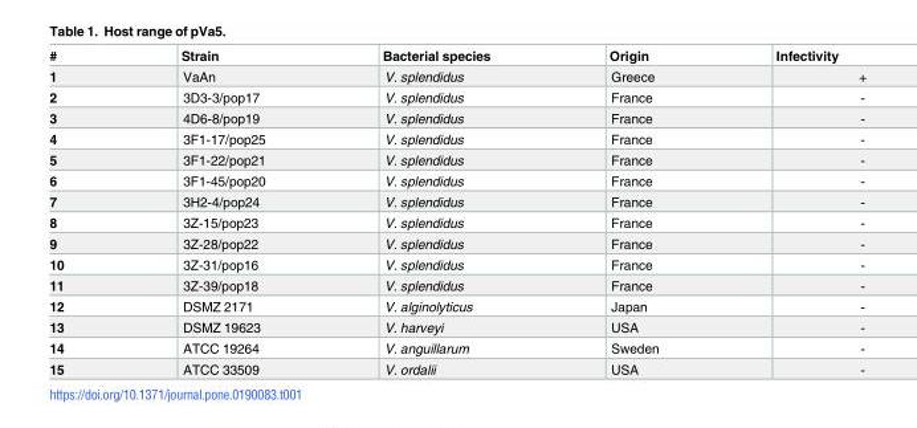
<table><thead><tr><td>#</td><td>Strain</td><td>Bacterial species</td><td>Origin</td><td>Infectivity</td></tr></thead><tbody><tr><td>1</td><td>VaAn</td><td>V. splendidus</td><td>Greece</td><td>+</td></tr><tr><td>2</td><td>3D3-3/pop17</td><td>V. splendidus</td><td>France</td><td>-</td></tr><tr><td>3</td><td>4D6-8/pop19</td><td>V. splendidus</td><td>France</td><td>-</td></tr><tr><td>4</td><td>3F1-17/pop25</td><td>V. splendidus</td><td>France</td><td>-</td></tr><tr><td>5</td><td>3F1-22/pop21</td><td>V. splendidus</td><td>France</td><td>-</td></tr><tr><td>6</td><td>3F1-45/pop20</td><td>V. splendidus</td><td>France</td><td>-</td></tr><tr><td>7</td><td>3H2-4/pop24</td><td>V. splendidus</td><td>France</td><td>-</td></tr><tr><td>8</td><td>3Z-15/pop23</td><td>V. splendidus</td><td>France</td><td>-</td></tr><tr><td>9</td><td>3Z-28/pop22</td><td>V. splendidus</td><td>France</td><td>-</td></tr><tr><td>10</td><td>3Z-31/pop16</td><td>V. splendidus</td><td>France</td><td>-</td></tr><tr><td>11</td><td>3Z-39/pop18</td><td>V. splendidus</td><td>France</td><td>-</td></tr><tr><td>12</td><td>DSMZ 2171</td><td>V. alginolyticus</td><td>Japan</td><td>-</td></tr><tr><td>13</td><td>DSMZ 19623</td><td>V. harveyi</td><td>USA</td><td>-</td></tr><tr><td>14</td><td>ATCC 19264</td><td>V. anguillarum</td><td>Sweden</td><td>-</td></tr><tr><td>15</td><td>ATCC 33509</td><td>V. ordalii</td><td>USA</td><td>-</td></tr></tbody></table>